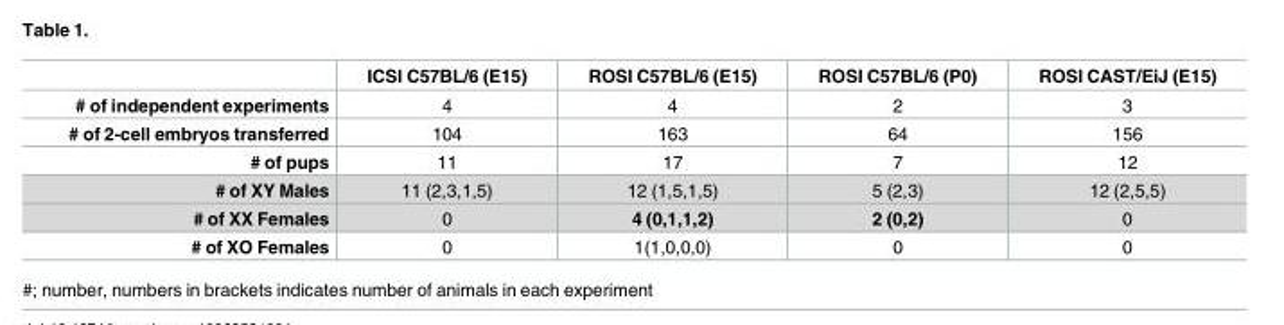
<table><thead><tr><td></td><td>ICSI C57BL/6 (E15)</td><td>ROSI C57BL/6 (E15)</td><td>ROSI C57BL/6 (P0)</td><td>ROSI CAST/EiJ (E15)</td></tr></thead><tbody><tr><td># of independent experiments</td><td>4</td><td>4</td><td>2</td><td>3</td></tr><tr><td># of 2-cell embryos transferred</td><td>104</td><td>163</td><td>64</td><td>156</td></tr><tr><td># of pups</td><td>11</td><td>17</td><td>7</td><td>12</td></tr><tr><td># of XY Males</td><td>11 (2,3,1,5)</td><td>12 (1,5,1,5)</td><td>5 (2,3)</td><td>12 (2,5,5)</td></tr><tr><td># of XX Females</td><td>0</td><td>4 (0,1,1,2)</td><td>2 (0,2)</td><td>0</td></tr><tr><td># of XO Females</td><td>0</td><td>1(1,0,0,0)</td><td>0</td><td>0</td></tr></tbody></table>